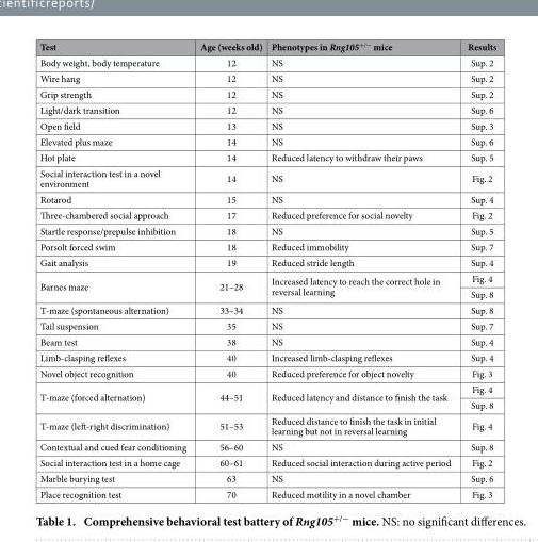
<table><thead><tr><td>Test</td><td>Age (weeks old)</td><td>Phenotypes in Rng105<sup>+/−</sup> mice</td><td>Results</td></tr></thead><tbody><tr><td>Body weight, body temperature</td><td>12</td><td>NS</td><td>Sup. 2</td></tr><tr><td>Wire hang</td><td>12</td><td>NS</td><td>Sup. 2</td></tr><tr><td>Grip strength</td><td>12</td><td>NS</td><td>Sup. 2</td></tr><tr><td>Light/dark transition</td><td>12</td><td>NS</td><td>Sup. 6</td></tr><tr><td>Open field</td><td>13</td><td>NS</td><td>Sup. 3</td></tr><tr><td>Elevated plus maze</td><td>14</td><td>NS</td><td>Sup. 6</td></tr><tr><td>Hot plate</td><td>14</td><td>Reduced latency to withdraw their paws</td><td>Sup. 5</td></tr><tr><td>Social interaction test in a novel environment</td><td>14</td><td>NS</td><td>Fig. 2</td></tr><tr><td>Rotarod</td><td>15</td><td>NS</td><td>Sup. 4</td></tr><tr><td>Three-chambered social approach</td><td>17</td><td>Reduced preference for social novelty</td><td>Fig. 2</td></tr><tr><td>Startle response/prepulse inhibition</td><td>18</td><td>NS</td><td>Sup. 5</td></tr><tr><td>Porsolt forced swim</td><td>18</td><td>Reduced immobility</td><td>Sup. 7</td></tr><tr><td>Gait analysis</td><td>19</td><td>Reduced stride length</td><td>Sup. 4</td></tr><tr><td rowspan="2">Barnes maze</td><td rowspan="2">21–28</td><td rowspan="2">Increased latency to reach the correct hole in reversal learning</td><td>Fig. 4</td></tr><tr><td>Sup. 8</td></tr><tr><td>T-maze (spontaneous alternation)</td><td>33–34</td><td>NS</td><td>Sup. 8</td></tr><tr><td>Tail suspension</td><td>35</td><td>NS</td><td>Sup. 7</td></tr><tr><td>Beam test</td><td>38</td><td>NS</td><td>Sup. 4</td></tr><tr><td>Limb-clasping reflexes</td><td>40</td><td>Increased limb-clasping reflexes</td><td>Sup. 4</td></tr><tr><td>Novel object recognition</td><td>40</td><td>Reduced preference for object novelty</td><td>Fig. 3</td></tr><tr><td rowspan="2">T-maze (forced alternation)</td><td rowspan="2">44–51</td><td rowspan="2">Reduced latency and distance to finish the task</td><td>Fig. 4</td></tr><tr><td>Sup. 8</td></tr><tr><td>T-maze (left-right discrimination)</td><td>51–53</td><td>Reduced distance to finish the task in initial learning but not in reversal learning</td><td>Fig. 4</td></tr><tr><td>Contextual and cued fear conditioning</td><td>56–60</td><td>NS</td><td>Sup. 8</td></tr><tr><td>Social interaction test in a home cage</td><td>60–61</td><td>Reduced social interaction during active period</td><td>Fig. 2</td></tr><tr><td>Marble burying test</td><td>63</td><td>NS</td><td>Sup. 6</td></tr><tr><td>Place recognition test</td><td>70</td><td>Reduced motility in a novel chamber</td><td>Fig. 3</td></tr></tbody></table>